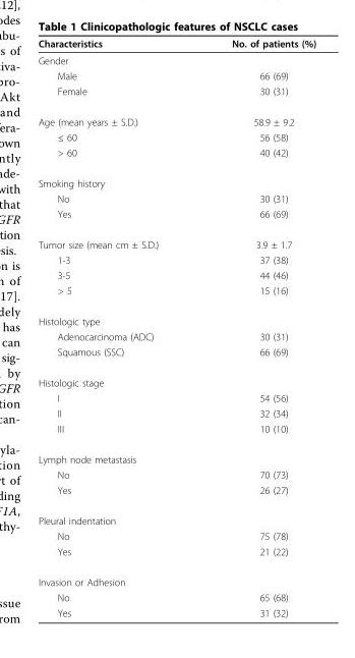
<table><thead><tr><td>Characteristics</td><td>No. of patients (%)</td></tr></thead><tbody><tr><td colspan="2">Gender</td></tr><tr><td>Male</td><td>66 (69)</td></tr><tr><td>Female</td><td>30 (31)</td></tr><tr><td>Age (mean years ± S.D.)</td><td>58.9 ± 9.2</td></tr><tr><td>≤ 60</td><td>56 (58)</td></tr><tr><td>&gt; 60</td><td>40 (42)</td></tr><tr><td colspan="2">Smoking history</td></tr><tr><td>No</td><td>30 (31)</td></tr><tr><td>Yes</td><td>66 (69)</td></tr><tr><td>Tumor size (mean cm ± S.D.)</td><td>3.9 ± 1.7</td></tr><tr><td>1-3</td><td>37 (38)</td></tr><tr><td>3-5</td><td>44 (46)</td></tr><tr><td>&gt; 5</td><td>15 (16)</td></tr><tr><td colspan="2">Histologic type</td></tr><tr><td>Adenocarcinoma (ADC)</td><td>30 (31)</td></tr><tr><td>Squamous (SSC)</td><td>66 (69)</td></tr><tr><td colspan="2">Histologic stage</td></tr><tr><td>I</td><td>54 (56)</td></tr><tr><td>II</td><td>32 (34)</td></tr><tr><td>III</td><td>10 (10)</td></tr><tr><td colspan="2">Lymph node metastasis</td></tr><tr><td>No</td><td>70 (73)</td></tr><tr><td>Yes</td><td>26 (27)</td></tr><tr><td colspan="2">Pleural indentation</td></tr><tr><td>No</td><td>75 (78)</td></tr><tr><td>Yes</td><td>21 (22)</td></tr><tr><td colspan="2">Invasion or Adhesion</td></tr><tr><td>No</td><td>65 (68)</td></tr><tr><td>Yes</td><td>31 (32)</td></tr></tbody></table>